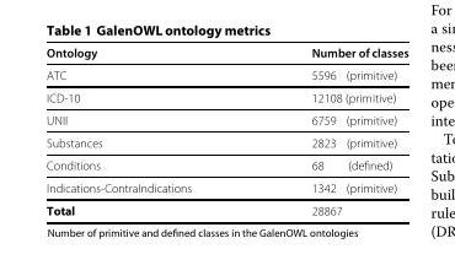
<table><thead><tr><td>Ontology</td><td>Number of classes</td></tr></thead><tbody><tr><td>ATC</td><td>5596 (primitive)</td></tr><tr><td>ICD-10</td><td>12108 (primitive)</td></tr><tr><td>UNII</td><td>6759 (primitive)</td></tr><tr><td>Substances</td><td>2823 (primitive)</td></tr><tr><td>Conditions</td><td>68 (defined)</td></tr><tr><td>Indications-ContraIndications</td><td>1342 (primitive)</td></tr><tr><td>Total</td><td>28867</td></tr></tbody></table>